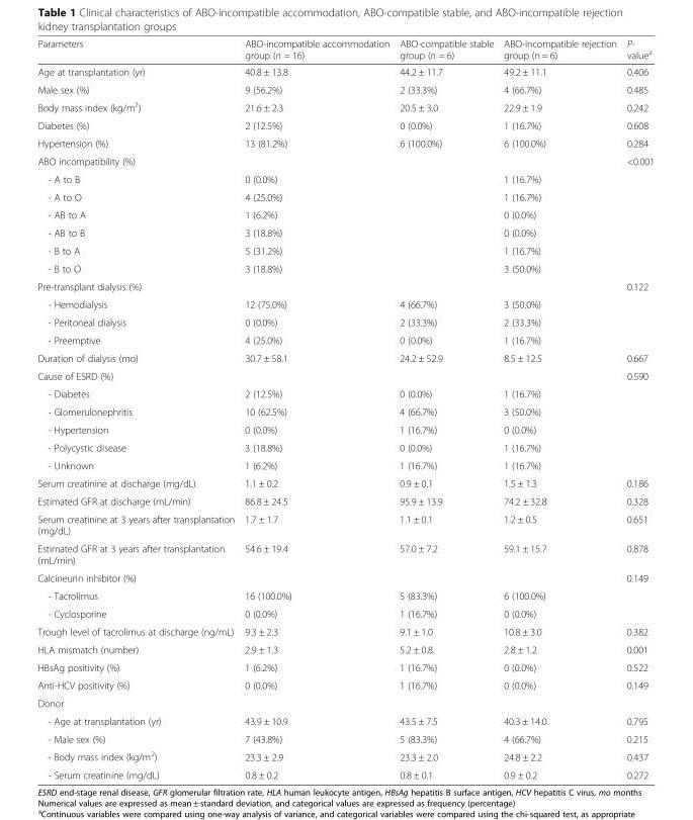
<table><thead><tr><td>Parameters</td><td>ABO-incompatible accommodation group (n = 16)</td><td>ABO-compatible stable group (n = 6)</td><td>ABO-incompatible rejection group (n = 6)</td><td>P- value<sup>a</sup></td></tr></thead><tbody><tr><td>Age at transplantation (yr)</td><td>40.8 ± 13.8</td><td>44.2 ± 11.7</td><td>49.2 ± 11.1</td><td>0.406</td></tr><tr><td>Male sex (%)</td><td>9 (56.2%)</td><td>2 (33.3%)</td><td>4 (66.7%)</td><td>0.485</td></tr><tr><td>Body mass index (kg/m<sup>2</sup>)</td><td>21.6 ± 2.3</td><td>20.5 ± 3.0</td><td>22.9 ± 1.9</td><td>0.242</td></tr><tr><td>Diabetes (%)</td><td>2 (12.5%)</td><td>0 (0.0%)</td><td>1 (16.7%)</td><td>0.608</td></tr><tr><td>Hypertension (%)</td><td>13 (81.2%)</td><td>6 (100.0%)</td><td>6 (100.0%)</td><td>0.284</td></tr><tr><td>ABO incompatibility (%)</td><td></td><td></td><td></td><td>&lt;0.001</td></tr><tr><td>- A to B</td><td>0 (0.0%)</td><td></td><td>1 (16.7%)</td><td></td></tr><tr><td>- A to O</td><td>4 (25.0%)</td><td></td><td>1 (16.7%)</td><td></td></tr><tr><td>- AB to A</td><td>1 (6.2%)</td><td></td><td>0 (0.0%)</td><td></td></tr><tr><td>- AB to B</td><td>3 (18.8%)</td><td></td><td>0 (0.0%)</td><td></td></tr><tr><td>- B to A</td><td>5 (31.2%)</td><td></td><td>1 (16.7%)</td><td></td></tr><tr><td>- B to O</td><td>3 (18.8%)</td><td></td><td>3 (50.0%)</td><td></td></tr><tr><td>Pre-transplant dialysis (%)</td><td></td><td></td><td></td><td>0.122</td></tr><tr><td>- Hemodialysis</td><td>12 (75.0%)</td><td>4 (66.7%)</td><td>3 (50.0%)</td><td></td></tr><tr><td>- Peritoneal dialysis</td><td>0 (0.0%)</td><td>2 (33.3%)</td><td>2 (33.3%)</td><td></td></tr><tr><td>- Preemptive</td><td>4 (25.0%)</td><td>0 (0.0%)</td><td>1 (16.7%)</td><td></td></tr><tr><td>Duration of dialysis (mo)</td><td>30.7 ± 58.1</td><td>24.2 ± 52.9</td><td>8.5 ± 12.5</td><td>0.667</td></tr><tr><td>Cause of ESRD (%)</td><td></td><td></td><td></td><td>0.590</td></tr><tr><td>- Diabetes</td><td>2 (12.5%)</td><td>0 (0.0%)</td><td>1 (16.7%)</td><td></td></tr><tr><td>- Glomerulonephritis</td><td>10 (62.5%)</td><td>4 (66.7%)</td><td>3 (50.0%)</td><td></td></tr><tr><td>- Hypertension</td><td>0 (0.0%)</td><td>1 (16.7%)</td><td>0 (0.0%)</td><td></td></tr><tr><td>- Polycystic disease</td><td>3 (18.8%)</td><td>0 (0.0%)</td><td>1 (16.7%)</td><td></td></tr><tr><td>- Unknown</td><td>1 (6.2%)</td><td>1 (16.7%)</td><td>1 (16.7%)</td><td></td></tr><tr><td>Serum creatinine at discharge (mg/dL)</td><td>1.1 ± 0.2</td><td>0.9 ± 0.1</td><td>1.5 ± 1.3</td><td>0.186</td></tr><tr><td>Estimated GFR at discharge (mL/min)</td><td>86.8 ± 24.5</td><td>95.9 ± 13.9</td><td>74.2 ± 32.8</td><td>0.328</td></tr><tr><td>Serum creatinine at 3 years after transplantation (mg/dL)</td><td>1.7 ± 1.7</td><td>1.1 ± 0.1</td><td>1.2 ± 0.5</td><td>0.651</td></tr><tr><td>Estimated GFR at 3 years after transplantation (mL/min)</td><td>54.6 ± 19.4</td><td>57.0 ± 7.2</td><td>59.1 ± 15.7</td><td>0.878</td></tr><tr><td>Calcineurin inhibitor (%)</td><td></td><td></td><td></td><td>0.149</td></tr><tr><td>- Tacrolimus</td><td>16 (100.0%)</td><td>5 (83.3%)</td><td>6 (100.0%)</td><td></td></tr><tr><td>- Cyclosporine</td><td>0 (0.0%)</td><td>1 (16.7%)</td><td>0 (0.0%)</td><td></td></tr><tr><td>Trough level of tacrolimus at discharge (ng/mL)</td><td>9.3 ± 2.3</td><td>9.1 ± 1.0</td><td>10.8 ± 3.0</td><td>0.382</td></tr><tr><td>HLA mismatch (number)</td><td>2.9 ± 1.3</td><td>5.2 ± 0.8</td><td>2.8 ± 1.2</td><td>0.001</td></tr><tr><td>HBsAg positivity (%)</td><td>1 (6.2%)</td><td>1 (16.7%)</td><td>0 (0.0%)</td><td>0.522</td></tr><tr><td>Anti-HCV positivity (%)</td><td>0 (0.0%)</td><td>1 (16.7%)</td><td>0 (0.0%)</td><td>0.149</td></tr><tr><td colspan="5">Donor</td></tr><tr><td>- Age at transplantation (yr)</td><td>43.9 ± 10.9</td><td>43.5 ± 7.5</td><td>40.3 ± 14.0</td><td>0.795</td></tr><tr><td>- Male sex (%)</td><td>7 (43.8%)</td><td>5 (83.3%)</td><td>4 (66.7%)</td><td>0.215</td></tr><tr><td>- Body mass index (kg/m<sup>2</sup>)</td><td>23.3 ± 2.9</td><td>23.3 ± 2.0</td><td>24.8 ± 2.2</td><td>0.437</td></tr><tr><td>- Serum creatinine (mg/dL)</td><td>0.8 ± 0.2</td><td>0.8 ± 0.1</td><td>0.9 ± 0.2</td><td>0.272</td></tr></tbody></table>